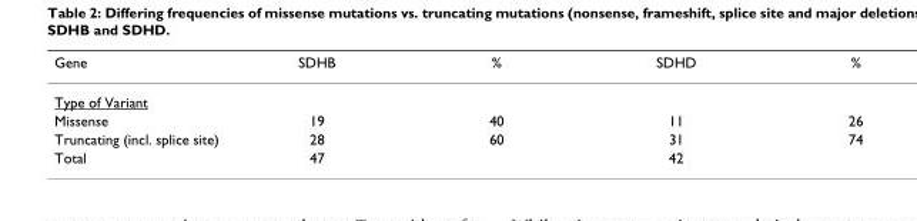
<table><thead><tr><td>Gene</td><td>SDHB</td><td>%</td><td>SDHD</td><td>%</td></tr></thead><tbody><tr><td colspan="5">Type of Variant</td></tr><tr><td>Missense</td><td>19</td><td>40</td><td>11</td><td>26</td></tr><tr><td>Truncating (incl. splice site)</td><td>28</td><td>60</td><td>31</td><td>74</td></tr><tr><td>Total</td><td>47</td><td></td><td>42</td><td></td></tr></tbody></table>